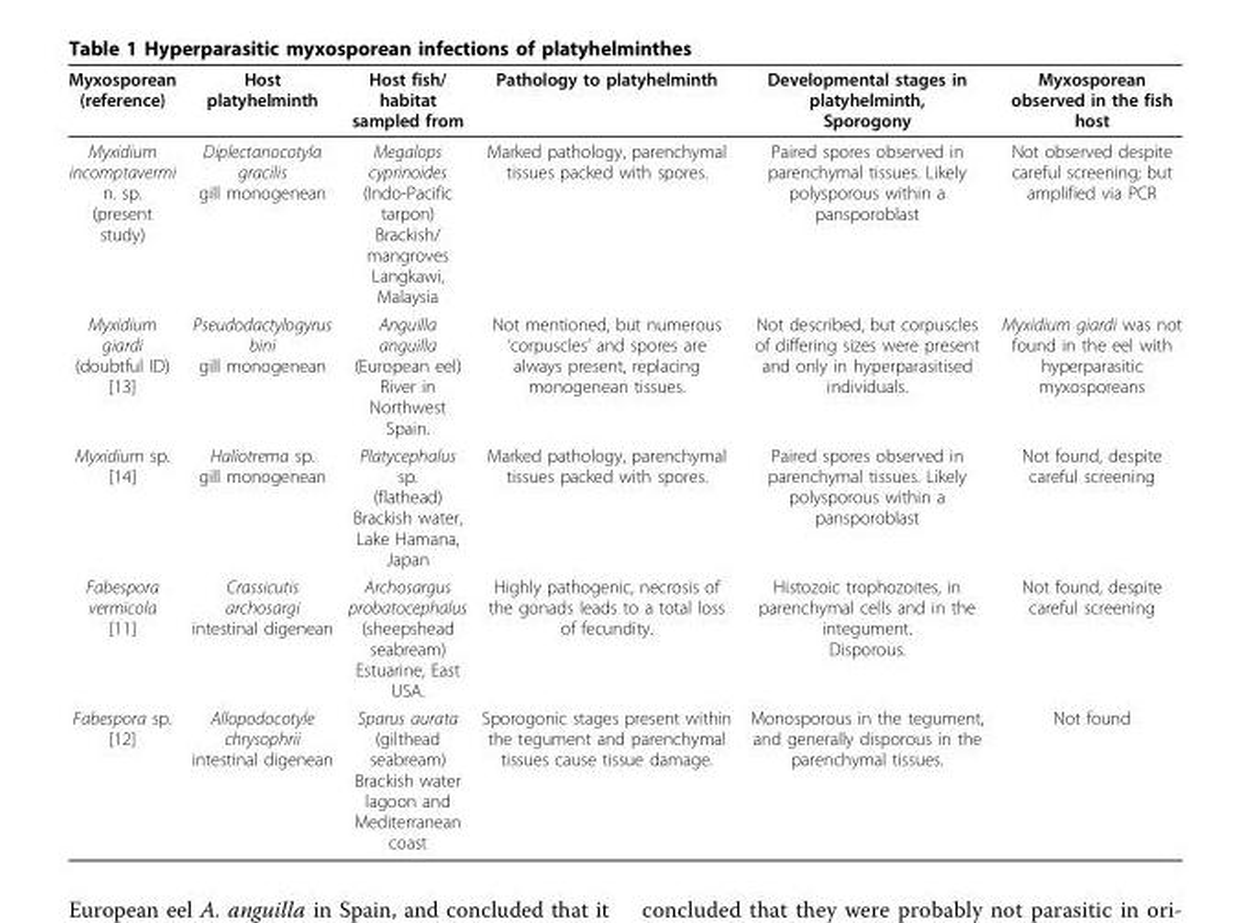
<table><thead><tr><td>Myxosporean (reference)</td><td>Host platyhelminth</td><td>Host fish/ habitat sampled from</td><td>Pathology to platyhelminth</td><td>Developmental stages in platyhelminth, Sporogony</td><td>Myxosporean observed in the fish host</td></tr></thead><tbody><tr><td>Myxidium incomptavermi n. sp. (present study)</td><td>Diplectanocotyla gracilis gill monogenean</td><td>Megalops cyprinoides (Indo-Pacific tarpon) Brackish/ mangroves Langkawi, Malaysia</td><td>Marked pathology, parenchymal tissues packed with spores.</td><td>Paired spores observed in parenchymal tissues. Likely polysporous within a pansporoblast</td><td>Not observed despite careful screening; but amplified via PCR</td></tr><tr><td>Myxidium giardi (doubtful ID) [13]</td><td>Pseudodactylogyrus bini gill monogenean</td><td>Anguilla anguilla (European eel) River in Northwest Spain.</td><td>Not mentioned, but numerous ‘corpuscles’ and spores are always present, replacing monogenean tissues.</td><td>Not described, but corpuscles of differing sizes were present and only in hyperparasitised individuals.</td><td>Myxidium giardi was not found in the eel with hyperparasitic myxosporeans</td></tr><tr><td>Myxidium sp. [14]</td><td>Haliotrema sp. gill monogenean</td><td>Platycephalus sp. (flathead) Brackish water, Lake Hamana, Japan</td><td>Marked pathology, parenchymal tissues packed with spores.</td><td>Paired spores observed in parenchymal tissues. Likely polysporous within a pansporoblast</td><td>Not found, despite careful screening</td></tr><tr><td>Fabespora vermicola [11]</td><td>Crassicutis archosargi intestinal digenean</td><td>Archosargus probatocephalus (sheepshead seabream) Estuarine, East USA.</td><td>Highly pathogenic, necrosis of the gonads leads to a total loss of fecundity.</td><td>Histozoic trophozoites, in parenchymal cells and in the integument. Disporous.</td><td>Not found, despite careful screening</td></tr><tr><td>Fabespora sp. [12]</td><td>Allopodocotyle chrysophrii intestinal digenean</td><td>Sparus aurata (gilthead seabream) Brackish water lagoon and Mediterranean coast</td><td>Sporogonic stages present within the tegument and parenchymal tissues cause tissue damage.</td><td>Monosporous in the tegument, and generally disporous in the parenchymal tissues.</td><td>Not found</td></tr></tbody></table>